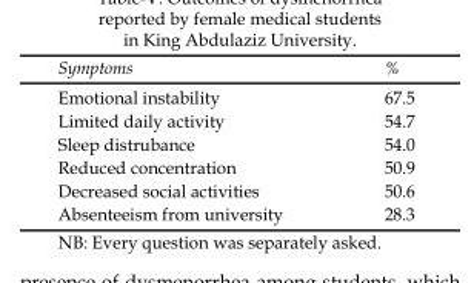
<table><thead><tr><td>Symptoms</td><td>%</td></tr></thead><tbody><tr><td>Emotional instability</td><td>67.5</td></tr><tr><td>Limited daily activity</td><td>54.7</td></tr><tr><td>Sleep distrubance</td><td>54.0</td></tr><tr><td>Reduced concentration</td><td>50.9</td></tr><tr><td>Decreased social activities</td><td>50.6</td></tr><tr><td>Absenteeism from university</td><td>28.3</td></tr></tbody></table>